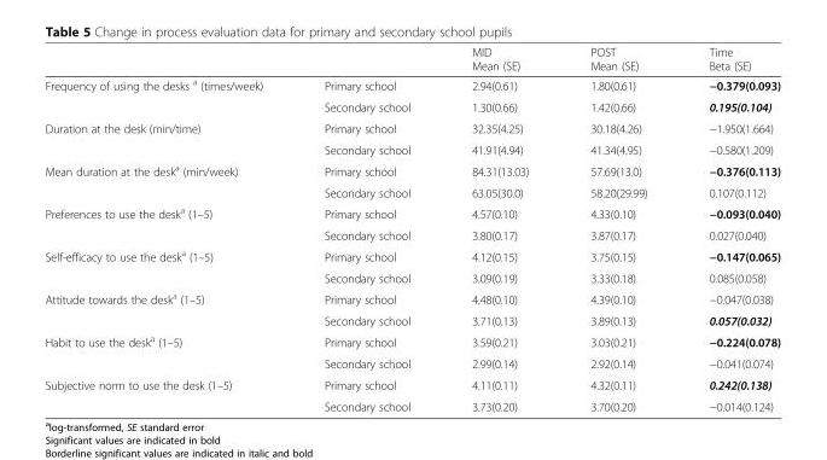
<table><thead><tr><td></td><td></td><td>MID Mean (SE)</td><td>POST Mean (SE)</td><td>Time Beta (SE)</td></tr></thead><tbody><tr><td rowspan="2">Frequency of using the desks <sup>a</sup> (times/week)</td><td>Primary school</td><td>2.94(0.61)</td><td>1.80(0.61)</td><td>−0.379(0.093)</td></tr><tr><td>Secondary school</td><td>1.30(0.66)</td><td>1.42(0.66)</td><td>0.195(0.104)</td></tr><tr><td rowspan="2">Duration at the desk (min/time)</td><td>Primary school</td><td>32.35(4.25)</td><td>30.18(4.26)</td><td>−1.950(1.664)</td></tr><tr><td>Secondary school</td><td>41.91(4.94)</td><td>41.34(4.95)</td><td>−0.580(1.209)</td></tr><tr><td rowspan="2">Mean duration at the desk<sup>a</sup> (min/week)</td><td>Primary school</td><td>84.31(13.03)</td><td>57.69(13.0)</td><td>−0.376(0.113)</td></tr><tr><td>Secondary school</td><td>63.05(30.0)</td><td>58.20(29.99)</td><td>0.107(0.112)</td></tr><tr><td rowspan="2">Preferences to use the desk<sup>a</sup> (1–5)</td><td>Primary school</td><td>4.57(0.10)</td><td>4.33(0.10)</td><td>−0.093(0.040)</td></tr><tr><td>Secondary school</td><td>3.80(0.17)</td><td>3.87(0.17)</td><td>0.027(0.040)</td></tr><tr><td rowspan="2">Self-efficacy to use the desk<sup>a</sup> (1–5)</td><td>Primary school</td><td>4.12(0.15)</td><td>3.75(0.15)</td><td>−0.147(0.065)</td></tr><tr><td>Secondary school</td><td>3.09(0.19)</td><td>3.33(0.18)</td><td>0.085(0.058)</td></tr><tr><td rowspan="2">Attitude towards the desk<sup>a</sup> (1–5)</td><td>Primary school</td><td>4.48(0.10)</td><td>4.39(0.10)</td><td>−0.047(0.038)</td></tr><tr><td>Secondary school</td><td>3.71(0.13)</td><td>3.89(0.13)</td><td>0.057(0.032)</td></tr><tr><td rowspan="2">Habit to use the desk<sup>a</sup> (1–5)</td><td>Primary school</td><td>3.59(0.21)</td><td>3.03(0.21)</td><td>−0.224(0.078)</td></tr><tr><td>Secondary school</td><td>2.99(0.14)</td><td>2.92(0.14)</td><td>−0.041(0.074)</td></tr><tr><td rowspan="2">Subjective norm to use the desk (1–5)</td><td>Primary school</td><td>4.11(0.11)</td><td>4.32(0.11)</td><td>0.242(0.138)</td></tr><tr><td>Secondary school</td><td>3.73(0.20)</td><td>3.70(0.20)</td><td>−0.014(0.124)</td></tr></tbody></table>